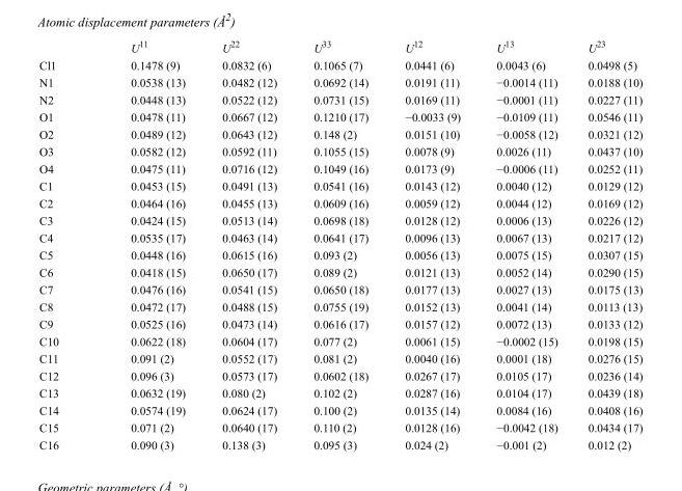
<table><thead><tr><td></td><td>U<sup>11</sup></td><td>U<sup>22</sup></td><td>U<sup>33</sup></td><td>U<sup>12</sup></td><td>U<sup>13</sup></td><td>U<sup>23</sup></td></tr></thead><tbody><tr><td>Cl1</td><td>0.1478 (9)</td><td>0.0832 (6)</td><td>0.1065 (7)</td><td>0.0441 (6)</td><td>0.0043 (6)</td><td>0.0498 (5)</td></tr><tr><td>N1</td><td>0.0538 (13)</td><td>0.0482 (12)</td><td>0.0692 (14)</td><td>0.0191 (11)</td><td>−0.0014 (11)</td><td>0.0188 (10)</td></tr><tr><td>N2</td><td>0.0448 (13)</td><td>0.0522 (12)</td><td>0.0731 (15)</td><td>0.0169 (11)</td><td>−0.0001 (11)</td><td>0.0227 (11)</td></tr><tr><td>O1</td><td>0.0478 (11)</td><td>0.0667 (12)</td><td>0.1210 (17)</td><td>−0.0033 (9)</td><td>−0.0109 (11)</td><td>0.0546 (11)</td></tr><tr><td>O2</td><td>0.0489 (12)</td><td>0.0643 (12)</td><td>0.148 (2)</td><td>0.0151 (10)</td><td>−0.0058 (12)</td><td>0.0321 (12)</td></tr><tr><td>O3</td><td>0.0582 (12)</td><td>0.0592 (11)</td><td>0.1055 (15)</td><td>0.0078 (9)</td><td>0.0026 (11)</td><td>0.0437 (10)</td></tr><tr><td>O4</td><td>0.0475 (11)</td><td>0.0716 (12)</td><td>0.1049 (16)</td><td>0.0173 (9)</td><td>−0.0006 (11)</td><td>0.0252 (11)</td></tr><tr><td>C1</td><td>0.0453 (15)</td><td>0.0491 (13)</td><td>0.0541 (16)</td><td>0.0143 (12)</td><td>0.0040 (12)</td><td>0.0129 (12)</td></tr><tr><td>C2</td><td>0.0464 (16)</td><td>0.0455 (13)</td><td>0.0609 (16)</td><td>0.0059 (12)</td><td>0.0044 (12)</td><td>0.0169 (12)</td></tr><tr><td>C3</td><td>0.0424 (15)</td><td>0.0513 (14)</td><td>0.0698 (18)</td><td>0.0128 (12)</td><td>0.0006 (13)</td><td>0.0226 (12)</td></tr><tr><td>C4</td><td>0.0535 (17)</td><td>0.0463 (14)</td><td>0.0641 (17)</td><td>0.0096 (13)</td><td>0.0067 (13)</td><td>0.0217 (12)</td></tr><tr><td>C5</td><td>0.0448 (16)</td><td>0.0615 (16)</td><td>0.093 (2)</td><td>0.0056 (13)</td><td>0.0075 (15)</td><td>0.0307 (15)</td></tr><tr><td>C6</td><td>0.0418 (15)</td><td>0.0650 (17)</td><td>0.089 (2)</td><td>0.0121 (13)</td><td>0.0052 (14)</td><td>0.0290 (15)</td></tr><tr><td>C7</td><td>0.0476 (16)</td><td>0.0541 (15)</td><td>0.0650 (18)</td><td>0.0177 (13)</td><td>0.0027 (13)</td><td>0.0175 (13)</td></tr><tr><td>C8</td><td>0.0472 (17)</td><td>0.0488 (15)</td><td>0.0755 (19)</td><td>0.0152 (13)</td><td>0.0041 (14)</td><td>0.0113 (13)</td></tr><tr><td>C9</td><td>0.0525 (16)</td><td>0.0473 (14)</td><td>0.0616 (17)</td><td>0.0157 (12)</td><td>0.0072 (13)</td><td>0.0133 (12)</td></tr><tr><td>C10</td><td>0.0622 (18)</td><td>0.0604 (17)</td><td>0.077 (2)</td><td>0.0061 (15)</td><td>−0.0002 (15)</td><td>0.0198 (15)</td></tr><tr><td>C11</td><td>0.091 (2)</td><td>0.0552 (17)</td><td>0.081 (2)</td><td>0.0040 (16)</td><td>0.0001 (18)</td><td>0.0276 (15)</td></tr><tr><td>C12</td><td>0.096 (3)</td><td>0.0573 (17)</td><td>0.0602 (18)</td><td>0.0267 (17)</td><td>0.0105 (17)</td><td>0.0236 (14)</td></tr><tr><td>C13</td><td>0.0632 (19)</td><td>0.080 (2)</td><td>0.102 (2)</td><td>0.0287 (16)</td><td>0.0104 (17)</td><td>0.0439 (18)</td></tr><tr><td>C14</td><td>0.0574 (19)</td><td>0.0624 (17)</td><td>0.100 (2)</td><td>0.0135 (14)</td><td>0.0084 (16)</td><td>0.0408 (16)</td></tr><tr><td>C15</td><td>0.071 (2)</td><td>0.0640 (17)</td><td>0.110 (2)</td><td>0.0128 (16)</td><td>−0.0042 (18)</td><td>0.0434 (17)</td></tr><tr><td>C16</td><td>0.090 (3)</td><td>0.138 (3)</td><td>0.095 (3)</td><td>0.024 (2)</td><td>−0.001 (2)</td><td>0.012 (2)</td></tr></tbody></table>